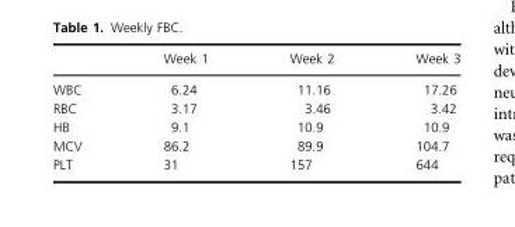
<table><thead><tr><td></td><td>Week 1</td><td>Week 2</td><td>Week 3</td></tr></thead><tbody><tr><td>WBC</td><td>6.24</td><td>11.16</td><td>17.26</td></tr><tr><td>RBC</td><td>3.17</td><td>3.46</td><td>3.42</td></tr><tr><td>HB</td><td>9.1</td><td>10.9</td><td>10.9</td></tr><tr><td>MCV</td><td>86.2</td><td>89.9</td><td>104.7</td></tr><tr><td>PLT</td><td>31</td><td>157</td><td>644</td></tr></tbody></table>